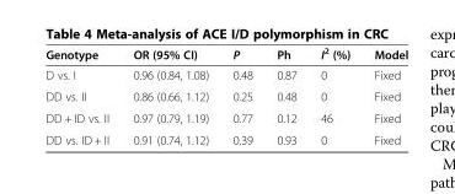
<table><thead><tr><td>Genotype</td><td>OR (95% CI)</td><td>P</td><td>Ph</td><td>I<sup>2</sup> (%)</td><td>Model</td></tr></thead><tbody><tr><td>D vs. I</td><td>0.96 (0.84, 1.08)</td><td>0.48</td><td>0.87</td><td>0</td><td>Fixed</td></tr><tr><td>DD vs. II</td><td>0.86 (0.66, 1.12)</td><td>0.25</td><td>0.48</td><td>0</td><td>Fixed</td></tr><tr><td>DD + ID vs. II</td><td>0.97 (0.79, 1.19)</td><td>0.77</td><td>0.12</td><td>46</td><td>Fixed</td></tr><tr><td>DD vs. ID + II</td><td>0.91 (0.74, 1.12)</td><td>0.39</td><td>0.93</td><td>0</td><td>Fixed</td></tr></tbody></table>